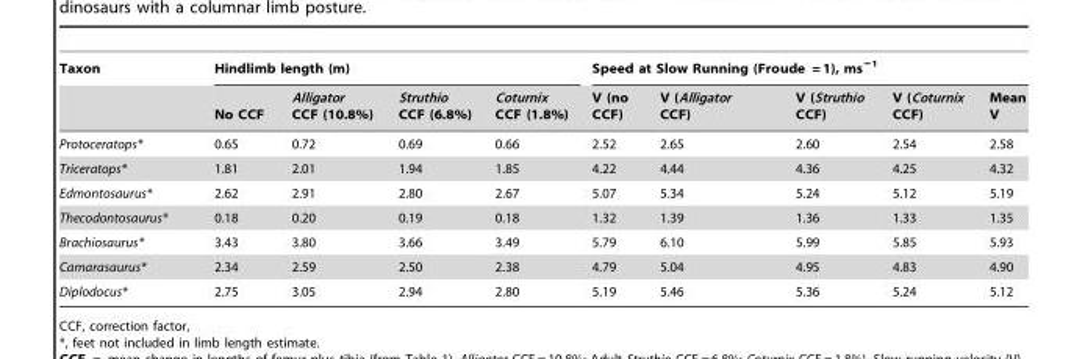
<table><thead><tr><td rowspan="2">Taxon</td><td colspan="4">Hindlimb length (m)</td><td colspan="5">Speed at Slow Running (Froude = 1), ms<sup>−1</sup></td></tr><tr><td>No CCF</td><td>Alligator CCF (10.8%)</td><td>Struthio CCF (6.8%)</td><td>Coturnix CCF (1.8%)</td><td>V (no CCF)</td><td>V (Alligator CCF)</td><td>V (Struthio CCF)</td><td>V (Coturnix CCF)</td><td>Mean V</td></tr></thead><tbody><tr><td>Protoceratops*</td><td>0.65</td><td>0.72</td><td>0.69</td><td>0.66</td><td>2.52</td><td>2.65</td><td>2.60</td><td>2.54</td><td>2.58</td></tr><tr><td>Triceratops*</td><td>1.81</td><td>2.01</td><td>1.94</td><td>1.85</td><td>4.22</td><td>4.44</td><td>4.36</td><td>4.25</td><td>4.32</td></tr><tr><td>Edmontosaurus*</td><td>2.62</td><td>2.91</td><td>2.80</td><td>2.67</td><td>5.07</td><td>5.34</td><td>5.24</td><td>5.12</td><td>5.19</td></tr><tr><td>Thecodontosaurus*</td><td>0.18</td><td>0.20</td><td>0.19</td><td>0.18</td><td>1.32</td><td>1.39</td><td>1.36</td><td>1.33</td><td>1.35</td></tr><tr><td>Brachiosaurus*</td><td>3.43</td><td>3.80</td><td>3.66</td><td>3.49</td><td>5.79</td><td>6.10</td><td>5.99</td><td>5.85</td><td>5.93</td></tr><tr><td>Camarasaurus*</td><td>2.34</td><td>2.59</td><td>2.50</td><td>2.38</td><td>4.79</td><td>5.04</td><td>4.95</td><td>4.83</td><td>4.90</td></tr><tr><td>Diplodocus*</td><td>2.75</td><td>3.05</td><td>2.94</td><td>2.80</td><td>5.19</td><td>5.46</td><td>5.36</td><td>5.24</td><td>5.12</td></tr></tbody></table>